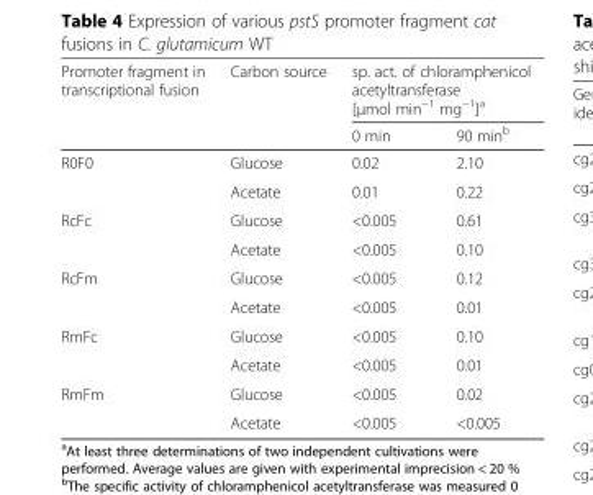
<table><thead><tr><td rowspan="2">Promoter fragment in transcriptional fusion</td><td rowspan="2">Carbon source</td><td colspan="2">sp. act. of chloramphenicol acetyltransferase [μmol min<sup>−1</sup> mg<sup>−1</sup>]<sup>a</sup></td></tr><tr><td>0 min</td><td>90 min<sup>b</sup></td></tr></thead><tbody><tr><td rowspan="2">R0F0</td><td>Glucose</td><td>0.02</td><td>2.10</td></tr><tr><td>Acetate</td><td>0.01</td><td>0.22</td></tr><tr><td rowspan="2">RcFc</td><td>Glucose</td><td>&lt;0.005</td><td>0.61</td></tr><tr><td>Acetate</td><td>&lt;0.005</td><td>0.10</td></tr><tr><td rowspan="2">RcFm</td><td>Glucose</td><td>&lt;0.005</td><td>0.12</td></tr><tr><td>Acetate</td><td>&lt;0.005</td><td>0.01</td></tr><tr><td rowspan="2">RmFc</td><td>Glucose</td><td>&lt;0.005</td><td>0.10</td></tr><tr><td>Acetate</td><td>&lt;0.005</td><td>0.01</td></tr><tr><td rowspan="2">RmFm</td><td>Glucose</td><td>&lt;0.005</td><td>0.02</td></tr><tr><td>Acetate</td><td>&lt;0.005</td><td>&lt;0.005</td></tr></tbody></table>